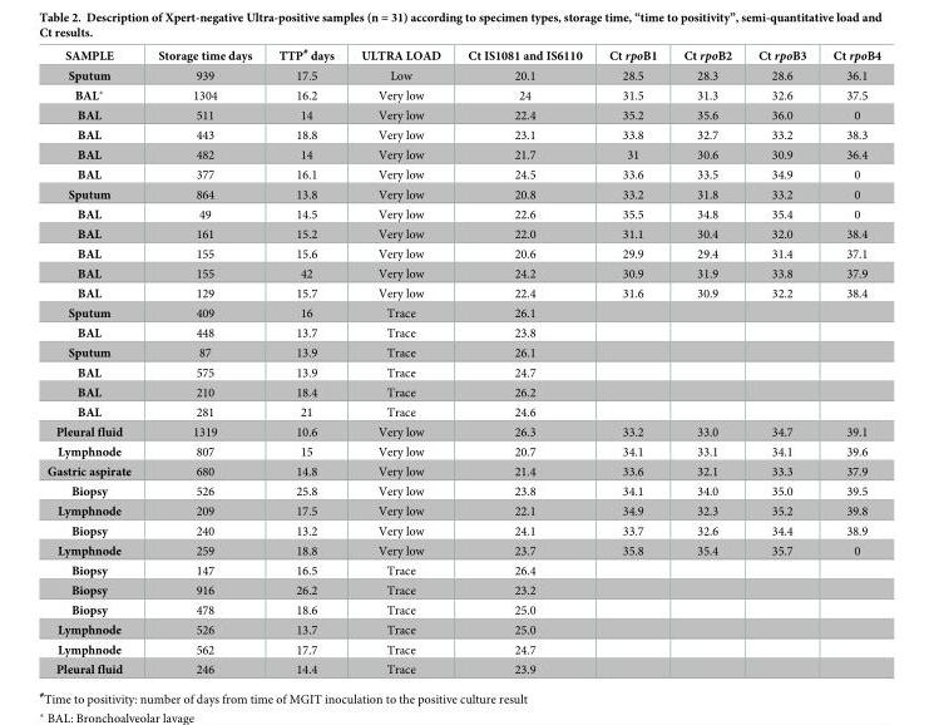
<table><thead><tr><td>SAMPLE</td><td>Storage time days</td><td>TTP<sup>#</sup> days</td><td>ULTRA LOAD</td><td>Ct IS1081 and IS6110</td><td>Ct rpoB1</td><td>Ct rpoB2</td><td>Ct rpoB3</td><td>Ct rpoB4</td></tr></thead><tbody><tr><td>Sputum</td><td>939</td><td>17.5</td><td>Low</td><td>20.1</td><td>28.5</td><td>28.3</td><td>28.6</td><td>36.1</td></tr><tr><td>BAL*</td><td>1304</td><td>16.2</td><td>Very low</td><td>24</td><td>31.5</td><td>31.3</td><td>32.6</td><td>37.5</td></tr><tr><td>BAL</td><td>511</td><td>14</td><td>Very low</td><td>22.4</td><td>35.2</td><td>35.6</td><td>36.0</td><td>0</td></tr><tr><td>BAL</td><td>443</td><td>18.8</td><td>Very low</td><td>23.1</td><td>33.8</td><td>32.7</td><td>33.2</td><td>38.3</td></tr><tr><td>BAL</td><td>482</td><td>14</td><td>Very low</td><td>21.7</td><td>31</td><td>30.6</td><td>30.9</td><td>36.4</td></tr><tr><td>BAL</td><td>377</td><td>16.1</td><td>Very low</td><td>24.5</td><td>33.6</td><td>33.5</td><td>34.9</td><td>0</td></tr><tr><td>Sputum</td><td>864</td><td>13.8</td><td>Very low</td><td>20.8</td><td>33.2</td><td>31.8</td><td>33.2</td><td>0</td></tr><tr><td>BAL</td><td>49</td><td>14.5</td><td>Very low</td><td>22.6</td><td>35.5</td><td>34.8</td><td>35.4</td><td>0</td></tr><tr><td>BAL</td><td>161</td><td>15.2</td><td>Very low</td><td>22.0</td><td>31.1</td><td>30.4</td><td>32.0</td><td>38.4</td></tr><tr><td>BAL</td><td>155</td><td>15.6</td><td>Very low</td><td>20.6</td><td>29.9</td><td>29.4</td><td>31.4</td><td>37.1</td></tr><tr><td>BAL</td><td>155</td><td>42</td><td>Very low</td><td>24.2</td><td>30.9</td><td>31.9</td><td>33.8</td><td>37.9</td></tr><tr><td>BAL</td><td>129</td><td>15.7</td><td>Very low</td><td>22.4</td><td>31.6</td><td>30.9</td><td>32.2</td><td>38.4</td></tr><tr><td>Sputum</td><td>409</td><td>16</td><td>Trace</td><td>26.1</td><td></td><td></td><td></td><td></td></tr><tr><td>BAL</td><td>448</td><td>13.7</td><td>Trace</td><td>23.8</td><td></td><td></td><td></td><td></td></tr><tr><td>Sputum</td><td>87</td><td>13.9</td><td>Trace</td><td>26.1</td><td></td><td></td><td></td><td></td></tr><tr><td>BAL</td><td>575</td><td>13.9</td><td>Trace</td><td>24.7</td><td></td><td></td><td></td><td></td></tr><tr><td>BAL</td><td>210</td><td>18.4</td><td>Trace</td><td>26.2</td><td></td><td></td><td></td><td></td></tr><tr><td>BAL</td><td>281</td><td>21</td><td>Trace</td><td>24.6</td><td></td><td></td><td></td><td></td></tr><tr><td>Pleural fluid</td><td>1319</td><td>10.6</td><td>Very low</td><td>26.3</td><td>33.2</td><td>33.0</td><td>34.7</td><td>39.1</td></tr><tr><td>Lymphnode</td><td>807</td><td>15</td><td>Very low</td><td>20.7</td><td>34.1</td><td>33.1</td><td>34.1</td><td>39.6</td></tr><tr><td>Gastric aspirate</td><td>680</td><td>14.8</td><td>Very low</td><td>21.4</td><td>33.6</td><td>32.1</td><td>33.3</td><td>37.9</td></tr><tr><td>Biopsy</td><td>526</td><td>25.8</td><td>Very low</td><td>23.8</td><td>34.1</td><td>34.0</td><td>35.0</td><td>39.5</td></tr><tr><td>Lymphnode</td><td>209</td><td>17.5</td><td>Very low</td><td>22.1</td><td>34.9</td><td>32.3</td><td>35.2</td><td>39.8</td></tr><tr><td>Biopsy</td><td>240</td><td>13.2</td><td>Very low</td><td>24.1</td><td>33.7</td><td>32.6</td><td>34.4</td><td>38.9</td></tr><tr><td>Lymphnode</td><td>259</td><td>18.8</td><td>Very low</td><td>23.7</td><td>35.8</td><td>35.4</td><td>35.7</td><td>0</td></tr><tr><td>Biopsy</td><td>147</td><td>16.5</td><td>Trace</td><td>26.4</td><td></td><td></td><td></td><td></td></tr><tr><td>Biopsy</td><td>916</td><td>26.2</td><td>Trace</td><td>23.2</td><td></td><td></td><td></td><td></td></tr><tr><td>Biopsy</td><td>478</td><td>18.6</td><td>Trace</td><td>25.0</td><td></td><td></td><td></td><td></td></tr><tr><td>Lymphnode</td><td>526</td><td>13.7</td><td>Trace</td><td>25.0</td><td></td><td></td><td></td><td></td></tr><tr><td>Lymphnode</td><td>562</td><td>17.7</td><td>Trace</td><td>24.7</td><td></td><td></td><td></td><td></td></tr><tr><td>Pleural fluid</td><td>246</td><td>14.4</td><td>Trace</td><td>23.9</td><td></td><td></td><td></td><td></td></tr></tbody></table>